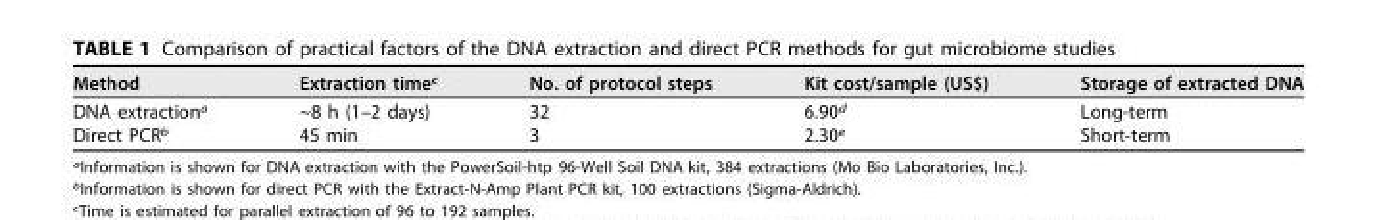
<table><thead><tr><td>Method</td><td>Extraction time<sup>c</sup></td><td>No. of protocol steps</td><td>Kit cost/sample (US$)</td><td>Storage of extracted DNA</td></tr></thead><tbody><tr><td>DNA extraction<sup>a</sup></td><td>~8 h (1–2 days)</td><td>32</td><td>6.90<sup>d</sup></td><td>Long-term</td></tr><tr><td>Direct PCR<sup>b</sup></td><td>45 min</td><td>3</td><td>2.30<sup>e</sup></td><td>Short-term</td></tr></tbody></table>